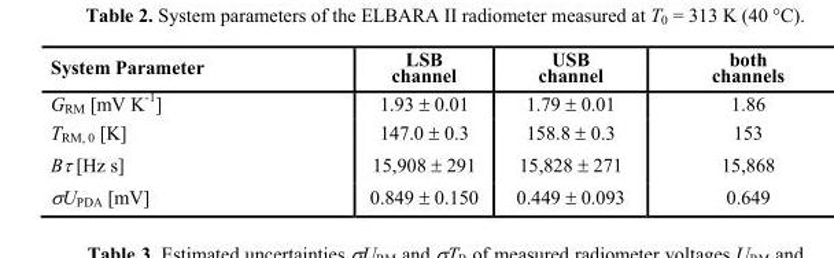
<table><thead><tr><td>System Parameter</td><td>LSB channel</td><td>USB channel</td><td>both channels</td></tr></thead><tbody><tr><td>G<sub>RM</sub> [mV K<sup>-1</sup>]</td><td>1.93 ± 0.01</td><td>1.79 ± 0.01</td><td>1.86</td></tr><tr><td>T<sub>RM, 0</sub> [K]</td><td>147.0 ± 0.3</td><td>158.8 ± 0.3</td><td>153</td></tr><tr><td>Bτ [Hz s]</td><td>15,908 ± 291</td><td>15,828 ± 271</td><td>15,868</td></tr><tr><td>σU<sub>PDA</sub> [mV]</td><td>0.849 ± 0.150</td><td>0.449 ± 0.093</td><td>0.649</td></tr></tbody></table>